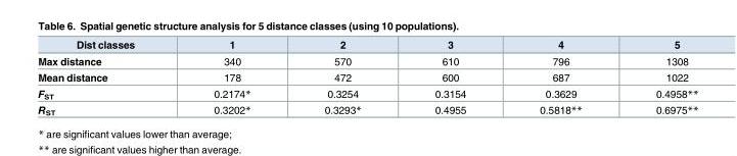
<table><thead><tr><td>Dist classes</td><td>1</td><td>2</td><td>3</td><td>4</td><td>5</td></tr></thead><tbody><tr><td>Max distance</td><td>340</td><td>570</td><td>610</td><td>796</td><td>1308</td></tr><tr><td>Mean distance</td><td>178</td><td>472</td><td>600</td><td>687</td><td>1022</td></tr><tr><td>F<sub>ST</sub></td><td>0.2174*</td><td>0.3254</td><td>0.3154</td><td>0.3629</td><td>0.4958**</td></tr><tr><td>R<sub>ST</sub></td><td>0.3202*</td><td>0.3293*</td><td>0.4955</td><td>0.5818**</td><td>0.6975**</td></tr></tbody></table>